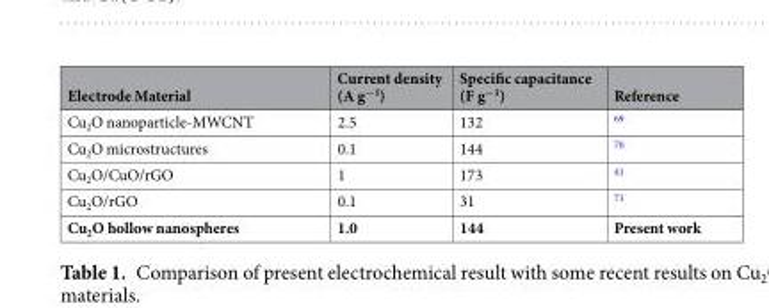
<table><thead><tr><td>Electrode Material</td><td>Current density (A g<sup>−1</sup>)</td><td>Specific capacitance (F g<sup>−1</sup>)</td><td>Reference</td></tr></thead><tbody><tr><td>Cu<sub>2</sub>O nanoparticle-MWCNT</td><td>2.5</td><td>132</td><td><sup>69</sup></td></tr><tr><td>Cu<sub>2</sub>O microstructures</td><td>0.1</td><td>144</td><td><sup>70</sup></td></tr><tr><td>Cu<sub>2</sub>O/CuO/rGO</td><td>1</td><td>173</td><td><sup>41</sup></td></tr><tr><td>Cu<sub>2</sub>O/rGO</td><td>0.1</td><td>31</td><td><sup>71</sup></td></tr><tr><td>Cu<sub>2</sub>O hollow nanospheres</td><td>1.0</td><td>144</td><td>Present work</td></tr></tbody></table>